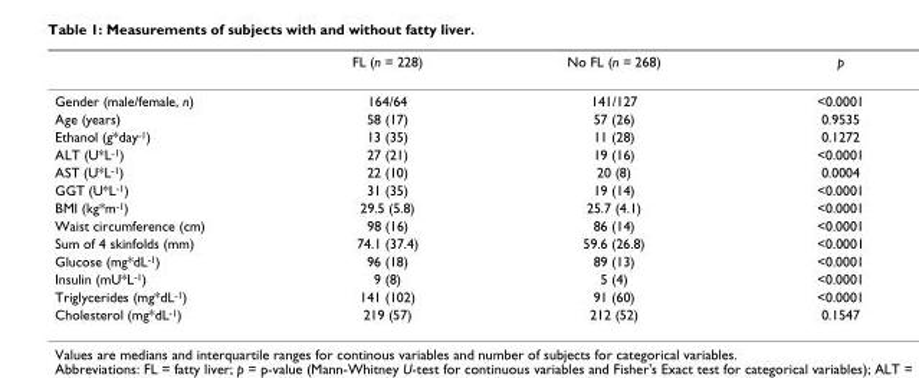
<table><thead><tr><td></td><td>FL (n = 228)</td><td>No FL (n = 268)</td><td>p</td></tr></thead><tbody><tr><td>Gender (male/female, n)</td><td>164/64</td><td>141/127</td><td>&lt;0.0001</td></tr><tr><td>Age (years)</td><td>58 (17)</td><td>57 (26)</td><td>0.9535</td></tr><tr><td>Ethanol (g*day-1)</td><td>13 (35)</td><td>11 (28)</td><td>0.1272</td></tr><tr><td>ALT (U*L-1)</td><td>27 (21)</td><td>19 (16)</td><td>&lt;0.0001</td></tr><tr><td>AST (U*L-1)</td><td>22 (10)</td><td>20 (8)</td><td>0.0004</td></tr><tr><td>GGT (U*L-1)</td><td>31 (35)</td><td>19 (14)</td><td>&lt;0.0001</td></tr><tr><td>BMI (kg*m-1)</td><td>29.5 (5.8)</td><td>25.7 (4.1)</td><td>&lt;0.0001</td></tr><tr><td>Waist circumference (cm)</td><td>98 (16)</td><td>86 (14)</td><td>&lt;0.0001</td></tr><tr><td>Sum of 4 skinfolds (mm)</td><td>74.1 (37.4)</td><td>59.6 (26.8)</td><td>&lt;0.0001</td></tr><tr><td>Glucose (mg*dL-1)</td><td>96 (18)</td><td>89 (13)</td><td>&lt;0.0001</td></tr><tr><td>Insulin (mU*L-1)</td><td>9 (8)</td><td>5 (4)</td><td>&lt;0.0001</td></tr><tr><td>Triglycerides (mg*dL-1)</td><td>141 (102)</td><td>91 (60)</td><td>&lt;0.0001</td></tr><tr><td>Cholesterol (mg*dL-1)</td><td>219 (57)</td><td>212 (52)</td><td>0.1547</td></tr></tbody></table>